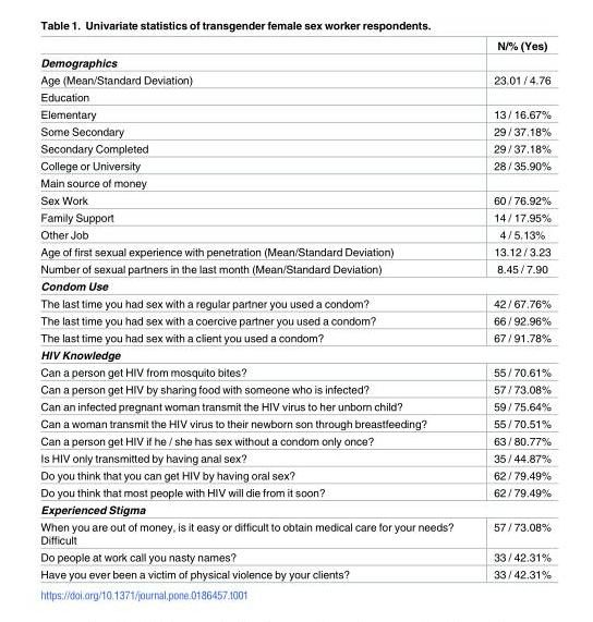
<table><thead><tr><td></td><td>N/% (Yes)</td></tr></thead><tbody><tr><td colspan="2">Demographics</td></tr><tr><td>Age (Mean/Standard Deviation)</td><td>23.01 / 4.76</td></tr><tr><td colspan="2">Education</td></tr><tr><td>Elementary</td><td>13 / 16.67%</td></tr><tr><td>Some Secondary</td><td>29 / 37.18%</td></tr><tr><td>Secondary Completed</td><td>29 / 37.18%</td></tr><tr><td>College or University</td><td>28 / 35.90%</td></tr><tr><td colspan="2">Main source of money</td></tr><tr><td>Sex Work</td><td>60 / 76.92%</td></tr><tr><td>Family Support</td><td>14 / 17.95%</td></tr><tr><td>Other Job</td><td>4 / 5.13%</td></tr><tr><td>Age of first sexual experience with penetration (Mean/Standard Deviation)</td><td>13.12 / 3.23</td></tr><tr><td>Number of sexual partners in the last month (Mean/Standard Deviation)</td><td>8.45 / 7.90</td></tr><tr><td colspan="2">Condom Use</td></tr><tr><td>The last time you had sex with a regular partner you used a condom?</td><td>42 / 67.76%</td></tr><tr><td>The last time you had sex with a coercive partner you used a condom?</td><td>66 / 92.96%</td></tr><tr><td>The last time you had sex with a client you used a condom?</td><td>67 / 91.78%</td></tr><tr><td colspan="2">HIV Knowledge</td></tr><tr><td>Can a person get HIV from mosquito bites?</td><td>55 / 70.61%</td></tr><tr><td>Can a person get HIV by sharing food with someone who is infected?</td><td>57 / 73.08%</td></tr><tr><td>Can an infected pregnant woman transmit the HIV virus to her unborn child?</td><td>59 / 75.64%</td></tr><tr><td>Can a woman transmit the HIV virus to their newborn son through breastfeeding?</td><td>55 / 70.51%</td></tr><tr><td>Can a person get HIV if he / she has sex without a condom only once?</td><td>63 / 80.77%</td></tr><tr><td>Is HIV only transmitted by having anal sex?</td><td>35 / 44.87%</td></tr><tr><td>Do you think that you can get HIV by having oral sex?</td><td>62 / 79.49%</td></tr><tr><td>Do you think that most people with HIV will die from it soon?</td><td>62 / 79.49%</td></tr><tr><td colspan="2">Experienced Stigma</td></tr><tr><td>When you are out of money, is it easy or difficult to obtain medical care for your needs? Difficult</td><td>57 / 73.08%</td></tr><tr><td>Do people at work call you nasty names?</td><td>33 / 42.31%</td></tr><tr><td>Have you ever been a victim of physical violence by your clients?</td><td>33 / 42.31%</td></tr></tbody></table>